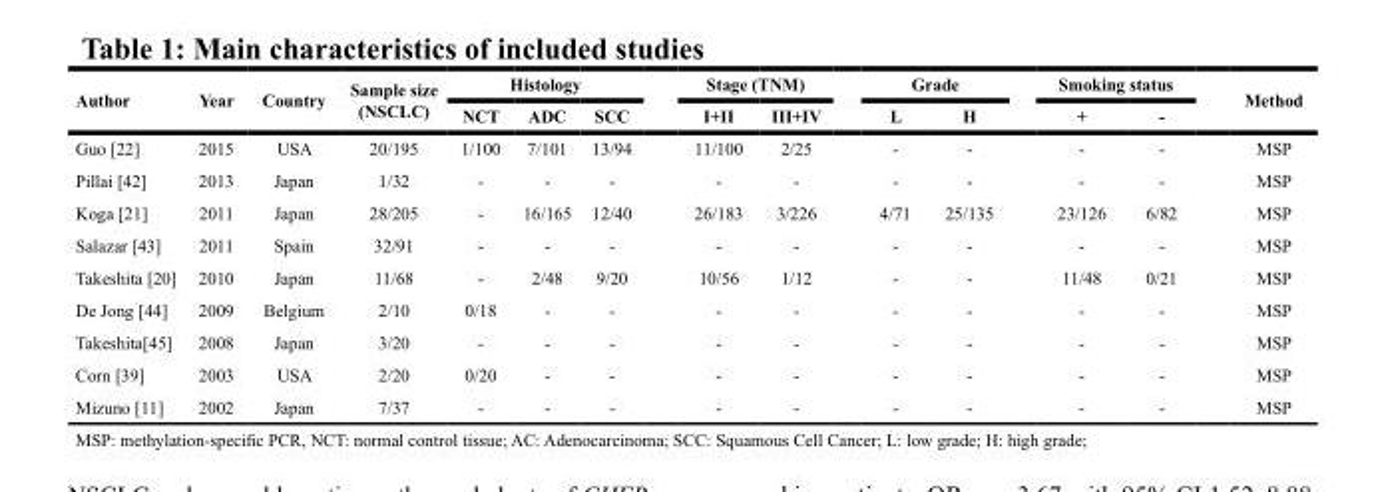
<table><thead><tr><td rowspan="2">Author</td><td rowspan="2">Year</td><td rowspan="2">Country</td><td rowspan="2">Sample size (NSCLC)</td><td colspan="3">Histology</td><td colspan="2">Stage (TNM)</td><td colspan="2">Grade</td><td colspan="2">Smoking status</td><td rowspan="2">Method</td></tr><tr><td>NCT</td><td>ADC</td><td>SCC</td><td>I+II</td><td>III+IV</td><td>L</td><td>H</td><td>+</td><td>-</td></tr></thead><tbody><tr><td>Guo [22]</td><td>2015</td><td>USA</td><td>20/195</td><td>1/100</td><td>7/101</td><td>13/94</td><td>11/100</td><td>2/25</td><td>-</td><td>-</td><td>-</td><td>-</td><td>MSP</td></tr><tr><td>Pillai [42]</td><td>2013</td><td>Japan</td><td>1/32</td><td>-</td><td>-</td><td>-</td><td>-</td><td>-</td><td>-</td><td>-</td><td>-</td><td>-</td><td>MSP</td></tr><tr><td>Koga [21]</td><td>2011</td><td>Japan</td><td>28/205</td><td>-</td><td>16/165</td><td>12/40</td><td>26/183</td><td>3/226</td><td>4/71</td><td>25/135</td><td>23/126</td><td>6/82</td><td>MSP</td></tr><tr><td>Salazar [43]</td><td>2011</td><td>Spain</td><td>32/91</td><td>-</td><td>-</td><td>-</td><td>-</td><td>-</td><td>-</td><td>-</td><td>-</td><td>-</td><td>MSP</td></tr><tr><td>Takeshita [20]</td><td>2010</td><td>Japan</td><td>11/68</td><td>-</td><td>2/48</td><td>9/20</td><td>10/56</td><td>1/12</td><td>-</td><td>-</td><td>11/48</td><td>0/21</td><td>MSP</td></tr><tr><td>De Jong [44]</td><td>2009</td><td>Belgium</td><td>2/10</td><td>0/18</td><td>-</td><td>-</td><td>-</td><td>-</td><td>-</td><td>-</td><td>-</td><td>-</td><td>MSP</td></tr><tr><td>Takeshita[45]</td><td>2008</td><td>Japan</td><td>3/20</td><td>-</td><td>-</td><td>-</td><td>-</td><td>-</td><td>-</td><td>-</td><td>-</td><td>-</td><td>MSP</td></tr><tr><td>Corn [39]</td><td>2003</td><td>USA</td><td>2/20</td><td>0/20</td><td>-</td><td>-</td><td>-</td><td>-</td><td>-</td><td>-</td><td>-</td><td>-</td><td>MSP</td></tr><tr><td>Mizuno [11]</td><td>2002</td><td>Japan</td><td>7/37</td><td>-</td><td>-</td><td>-</td><td>-</td><td>-</td><td>-</td><td>-</td><td>-</td><td>-</td><td>MSP</td></tr></tbody></table>